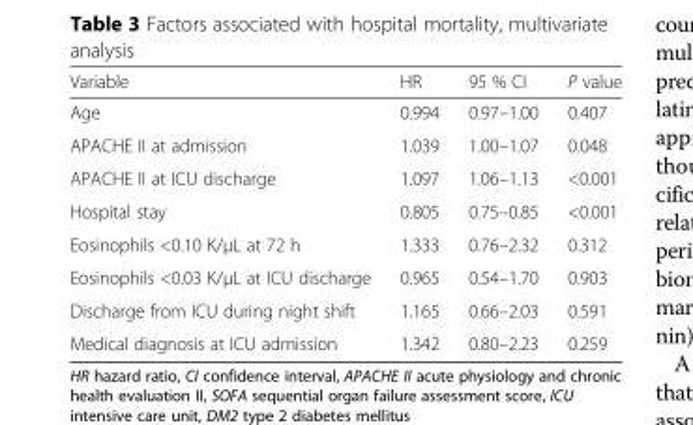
<table><thead><tr><td>Variable</td><td>HR</td><td>95 % CI</td><td>P value</td></tr></thead><tbody><tr><td>Age</td><td>0.994</td><td>0.97–1.00</td><td>0.407</td></tr><tr><td>APACHE II at admission</td><td>1.039</td><td>1.00–1.07</td><td>0.048</td></tr><tr><td>APACHE II at ICU discharge</td><td>1.097</td><td>1.06–1.13</td><td>&lt;0.001</td></tr><tr><td>Hospital stay</td><td>0.805</td><td>0.75–0.85</td><td>&lt;0.001</td></tr><tr><td>Eosinophils &lt;0.10 K/μL at 72 h</td><td>1.333</td><td>0.76–2.32</td><td>0.312</td></tr><tr><td>Eosinophils &lt;0.03 K/μL at ICU discharge</td><td>0.965</td><td>0.54–1.70</td><td>0.903</td></tr><tr><td>Discharge from ICU during night shift</td><td>1.165</td><td>0.66–2.03</td><td>0.591</td></tr><tr><td>Medical diagnosis at ICU admission</td><td>1.342</td><td>0.80–2.23</td><td>0.259</td></tr></tbody></table>